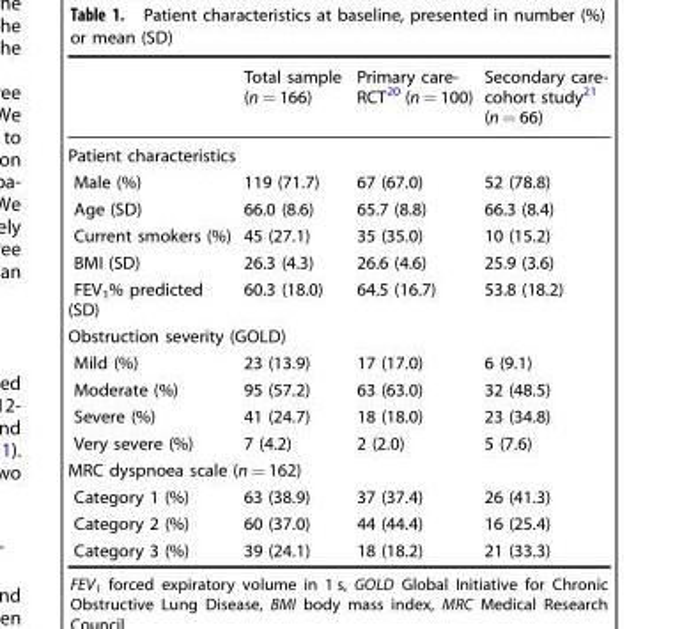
<table><thead><tr><td></td><td>Total sample (n = 166)</td><td>Primary care- RCT<sup>20</sup> (n = 100)</td><td>Secondary care- cohort study<sup>21</sup> (n = 66)</td></tr></thead><tbody><tr><td colspan="4">Patient characteristics</td></tr><tr><td>Male (%)</td><td>119 (71.7)</td><td>67 (67.0)</td><td>52 (78.8)</td></tr><tr><td>Age (SD)</td><td>66.0 (8.6)</td><td>65.7 (8.8)</td><td>66.3 (8.4)</td></tr><tr><td>Current smokers (%)</td><td>45 (27.1)</td><td>35 (35.0)</td><td>10 (15.2)</td></tr><tr><td>BMI (SD)</td><td>26.3 (4.3)</td><td>26.6 (4.6)</td><td>25.9 (3.6)</td></tr><tr><td>FEV<sub>1</sub>% predicted (SD)</td><td>60.3 (18.0)</td><td>64.5 (16.7)</td><td>53.8 (18.2)</td></tr><tr><td colspan="4">Obstruction severity (GOLD)</td></tr><tr><td>Mild (%)</td><td>23 (13.9)</td><td>17 (17.0)</td><td>6 (9.1)</td></tr><tr><td>Moderate (%)</td><td>95 (57.2)</td><td>63 (63.0)</td><td>32 (48.5)</td></tr><tr><td>Severe (%)</td><td>41 (24.7)</td><td>18 (18.0)</td><td>23 (34.8)</td></tr><tr><td>Very severe (%)</td><td>7 (4.2)</td><td>2 (2.0)</td><td>5 (7.6)</td></tr><tr><td colspan="4">MRC dyspnoea scale (n = 162)</td></tr><tr><td>Category 1 (%)</td><td>63 (38.9)</td><td>37 (37.4)</td><td>26 (41.3)</td></tr><tr><td>Category 2 (%)</td><td>60 (37.0)</td><td>44 (44.4)</td><td>16 (25.4)</td></tr><tr><td>Category 3 (%)</td><td>39 (24.1)</td><td>18 (18.2)</td><td>21 (33.3)</td></tr></tbody></table>